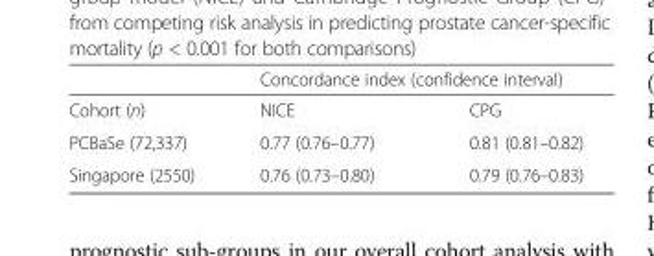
<table><thead><tr><td rowspan="2">Cohort (n)</td><td colspan="2">Concordance index (confidence interval)</td></tr><tr><td>NICE</td><td>CPG</td></tr></thead><tbody><tr><td>PCBaSe (72,337)</td><td>0.77 (0.76–0.77)</td><td>0.81 (0.81–0.82)</td></tr><tr><td>Singapore (2550)</td><td>0.76 (0.73–0.80)</td><td>0.79 (0.76–0.83)</td></tr></tbody></table>